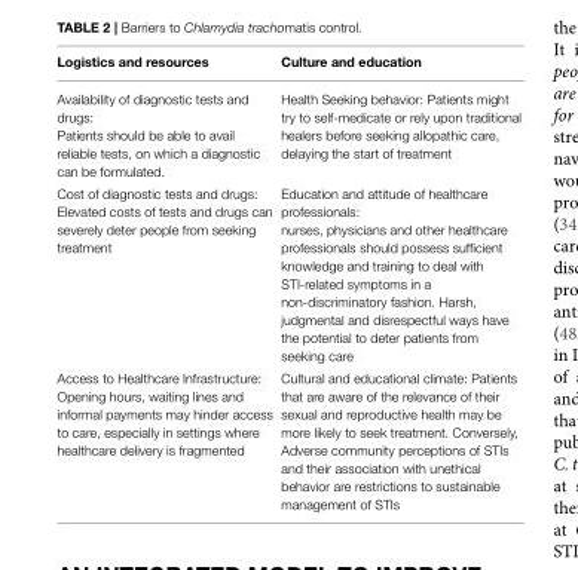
<table><thead><tr><td>Logistics and resources</td><td>Culture and education</td></tr></thead><tbody><tr><td>Availability of diagnostic tests and drugs: Patients should be able to avail reliable tests, on which a diagnostic can be formulated.</td><td>Health Seeking behavior: Patients might try to self-medicate or rely upon traditional healers before seeking allopathic care, delaying the start of treatment</td></tr><tr><td>Cost of diagnostic tests and drugs: Elevated costs of tests and drugs can severely deter people from seeking treatment</td><td>Education and attitude of healthcare professionals: nurses, physicians and other healthcare professionals should possess sufficient knowledge and training to deal with STI-related symptoms in a non-discriminatory fashion. Harsh, judgmental and disrespectful ways have the potential to deter patients from seeking care</td></tr><tr><td>Access to Healthcare Infrastructure: Opening hours, waiting lines and informal payments may hinder access to care, especially in settings where healthcare delivery is fragmented</td><td>Cultural and educational climate: Patients that are aware of the relevance of their sexual and reproductive health may be more likely to seek treatment. Conversely, Adverse community perceptions of STIs and their association with unethical behavior are restrictions to sustainable management of STIs</td></tr></tbody></table>